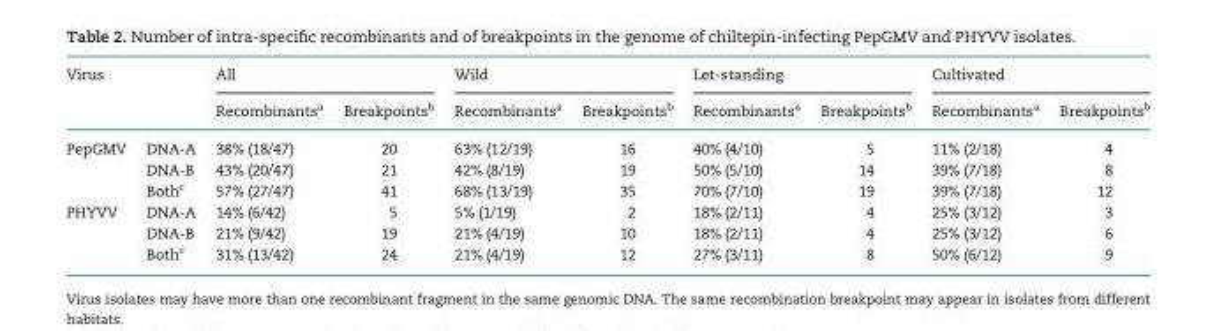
<table><thead><tr><td rowspan="2">Virus</td><td rowspan="2"></td><td colspan="2">All</td><td colspan="2">Wild</td><td colspan="2">Let-standing</td><td colspan="2">Cultivated</td></tr><tr><td>Recombinants<sup>a</sup></td><td>Breakpoints<sup>b</sup></td><td>Recombinants<sup>a</sup></td><td>Breakpoints<sup>b</sup></td><td>Recombinants<sup>a</sup></td><td>Breakpoints<sup>b</sup></td><td>Recombinants<sup>a</sup></td><td>Breakpoints<sup>b</sup></td></tr></thead><tbody><tr><td rowspan="3">PepGMV</td><td>DNA-A</td><td>38% (18/47)</td><td>20</td><td>63% (12/19)</td><td>16</td><td>40% (4/10)</td><td>5</td><td>11% (2/18)</td><td>4</td></tr><tr><td>DNA-B</td><td>43% (20/47)</td><td>21</td><td>42% (8/19)</td><td>19</td><td>50% (5/10)</td><td>14</td><td>39% (7/18)</td><td>8</td></tr><tr><td>Both<sup>c</sup></td><td>57% (27/47)</td><td>41</td><td>68% (13/19)</td><td>35</td><td>70% (7/10)</td><td>19</td><td>39% (7/18)</td><td>12</td></tr><tr><td rowspan="3">PHYVV</td><td>DNA-A</td><td>14% (6/42)</td><td>5</td><td>5% (1/19)</td><td>2</td><td>18% (2/11)</td><td>4</td><td>25% (3/12)</td><td>3</td></tr><tr><td>DNA-B</td><td>21% (9/42)</td><td>19</td><td>21% (4/19)</td><td>10</td><td>18% (2/11)</td><td>4</td><td>25% (3/12)</td><td>6</td></tr><tr><td>Both<sup>c</sup></td><td>31% (13/42)</td><td>24</td><td>21% (4/19)</td><td>12</td><td>27% (3/11)</td><td>8</td><td>50% (6/12)</td><td>9</td></tr></tbody></table>